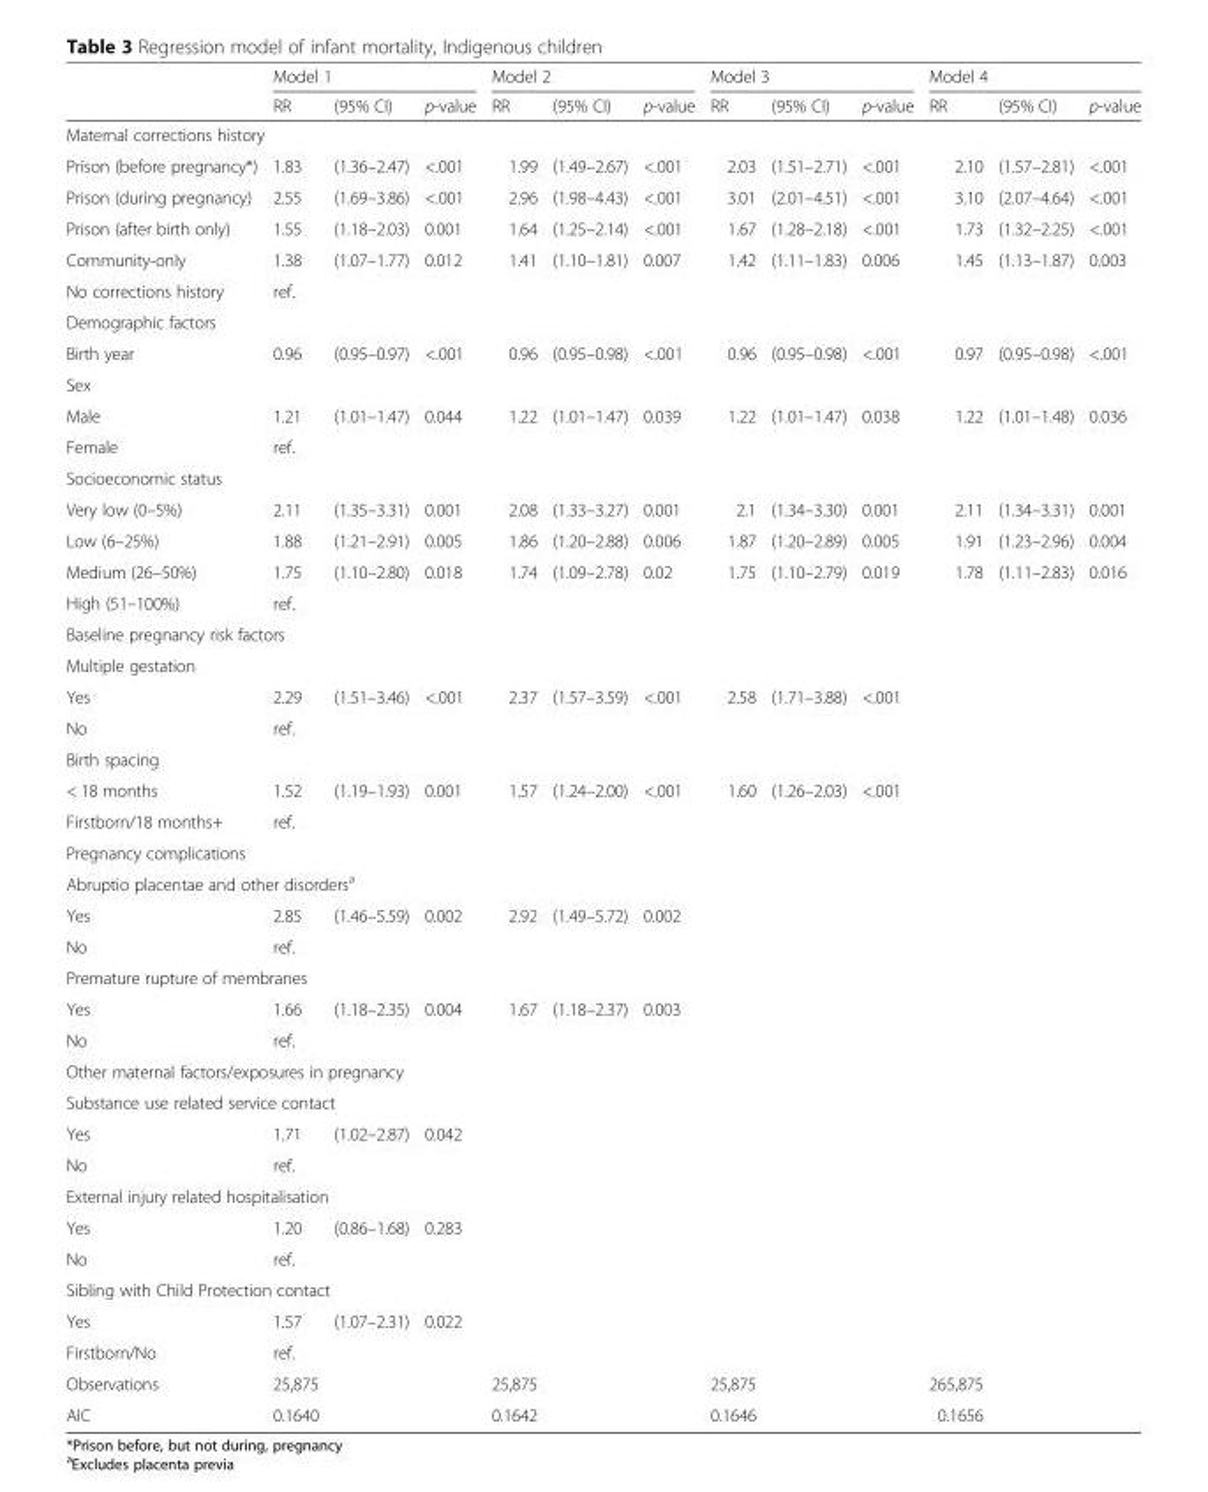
<table><thead><tr><td rowspan="2"></td><td colspan="3">Model 1</td><td colspan="3">Model 2</td><td colspan="3">Model 3</td><td colspan="3">Model 4</td></tr><tr><td>RR</td><td>(95% CI)</td><td>p-value</td><td>RR</td><td>(95% CI)</td><td>p-value</td><td>RR</td><td>(95% CI)</td><td>p-value</td><td>RR</td><td>(95% CI)</td><td>p-value</td></tr></thead><tbody><tr><td colspan="13">Maternal corrections history</td></tr><tr><td>Prison (before pregnancy*)</td><td>1.83</td><td>(1.36–2.47)</td><td>&lt;.001</td><td>1.99</td><td>(1.49–2.67)</td><td>&lt;.001</td><td>2.03</td><td>(1.51–2.71)</td><td>&lt;.001</td><td>2.10</td><td>(1.57–2.81)</td><td>&lt;.001</td></tr><tr><td>Prison (during pregnancy)</td><td>2.55</td><td>(1.69–3.86)</td><td>&lt;.001</td><td>2.96</td><td>(1.98–4.43)</td><td>&lt;.001</td><td>3.01</td><td>(2.01–4.51)</td><td>&lt;.001</td><td>3.10</td><td>(2.07–4.64)</td><td>&lt;.001</td></tr><tr><td>Prison (after birth only)</td><td>1.55</td><td>(1.18–2.03)</td><td>0.001</td><td>1.64</td><td>(1.25–2.14)</td><td>&lt;.001</td><td>1.67</td><td>(1.28–2.18)</td><td>&lt;.001</td><td>1.73</td><td>(1.32–2.25)</td><td>&lt;.001</td></tr><tr><td>Community-only</td><td>1.38</td><td>(1.07–1.77)</td><td>0.012</td><td>1.41</td><td>(1.10–1.81)</td><td>0.007</td><td>1.42</td><td>(1.11–1.83)</td><td>0.006</td><td>1.45</td><td>(1.13–1.87)</td><td>0.003</td></tr><tr><td>No corrections history</td><td>ref.</td><td></td><td></td><td></td><td></td><td></td><td></td><td></td><td></td><td></td><td></td><td></td></tr><tr><td colspan="13">Demographic factors</td></tr><tr><td>Birth year</td><td>0.96</td><td>(0.95–0.97)</td><td>&lt;.001</td><td>0.96</td><td>(0.95–0.98)</td><td>&lt;.001</td><td>0.96</td><td>(0.95–0.98)</td><td>&lt;.001</td><td>0.97</td><td>(0.95–0.98)</td><td>&lt;.001</td></tr><tr><td colspan="13">Sex</td></tr><tr><td>Male</td><td>1.21</td><td>(1.01–1.47)</td><td>0.044</td><td>1.22</td><td>(1.01–1.47)</td><td>0.039</td><td>1.22</td><td>(1.01–1.47)</td><td>0.038</td><td>1.22</td><td>(1.01–1.48)</td><td>0.036</td></tr><tr><td>Female</td><td>ref.</td><td></td><td></td><td></td><td></td><td></td><td></td><td></td><td></td><td></td><td></td><td></td></tr><tr><td colspan="13">Socioeconomic status</td></tr><tr><td>Very low (0–5%)</td><td>2.11</td><td>(1.35–3.31)</td><td>0.001</td><td>2.08</td><td>(1.33–3.27)</td><td>0.001</td><td>2.1</td><td>(1.34–3.30)</td><td>0.001</td><td>2.11</td><td>(1.34–3.31)</td><td>0.001</td></tr><tr><td>Low (6–25%)</td><td>1.88</td><td>(1.21–2.91)</td><td>0.005</td><td>1.86</td><td>(1.20–2.88)</td><td>0.006</td><td>1.87</td><td>(1.20–2.89)</td><td>0.005</td><td>1.91</td><td>(1.23–2.96)</td><td>0.004</td></tr><tr><td>Medium (26–50%)</td><td>1.75</td><td>(1.10–2.80)</td><td>0.018</td><td>1.74</td><td>(1.09–2.78)</td><td>0.02</td><td>1.75</td><td>(1.10–2.79)</td><td>0.019</td><td>1.78</td><td>(1.11–2.83)</td><td>0.016</td></tr><tr><td>High (51–100%)</td><td>ref.</td><td></td><td></td><td></td><td></td><td></td><td></td><td></td><td></td><td></td><td></td><td></td></tr><tr><td colspan="13">Baseline pregnancy risk factors</td></tr><tr><td colspan="13">Multiple gestation</td></tr><tr><td>Yes</td><td>2.29</td><td>(1.51–3.46)</td><td>&lt;.001</td><td>2.37</td><td>(1.57–3.59)</td><td>&lt;.001</td><td>2.58</td><td>(1.71–3.88)</td><td>&lt;.001</td><td></td><td></td><td></td></tr><tr><td>No</td><td>ref.</td><td></td><td></td><td></td><td></td><td></td><td></td><td></td><td></td><td></td><td></td><td></td></tr><tr><td colspan="13">Birth spacing</td></tr><tr><td>&lt; 18 months</td><td>1.52</td><td>(1.19–1.93)</td><td>0.001</td><td>1.57</td><td>(1.24–2.00)</td><td>&lt;.001</td><td>1.60</td><td>(1.26–2.03)</td><td>&lt;.001</td><td></td><td></td><td></td></tr><tr><td>Firstborn/18 months+</td><td>ref.</td><td></td><td></td><td></td><td></td><td></td><td></td><td></td><td></td><td></td><td></td><td></td></tr><tr><td colspan="13">Pregnancy complications</td></tr><tr><td colspan="13">Abruptio placentae and other disorders<sup>a</sup></td></tr><tr><td>Yes</td><td>2.85</td><td>(1.46–5.59)</td><td>0.002</td><td>2.92</td><td>(1.49–5.72)</td><td>0.002</td><td></td><td></td><td></td><td></td><td></td><td></td></tr><tr><td>No</td><td>ref.</td><td></td><td></td><td></td><td></td><td></td><td></td><td></td><td></td><td></td><td></td><td></td></tr><tr><td colspan="13">Premature rupture of membranes</td></tr><tr><td>Yes</td><td>1.66</td><td>(1.18–2.35)</td><td>0.004</td><td>1.67</td><td>(1.18–2.37)</td><td>0.003</td><td></td><td></td><td></td><td></td><td></td><td></td></tr><tr><td>No</td><td>ref.</td><td></td><td></td><td></td><td></td><td></td><td></td><td></td><td></td><td></td><td></td><td></td></tr><tr><td colspan="13">Other maternal factors/exposures in pregnancy</td></tr><tr><td colspan="13">Substance use related service contact</td></tr><tr><td>Yes</td><td>1.71</td><td>(1.02–2.87)</td><td>0.042</td><td></td><td></td><td></td><td></td><td></td><td></td><td></td><td></td><td></td></tr><tr><td>No</td><td>ref.</td><td></td><td></td><td></td><td></td><td></td><td></td><td></td><td></td><td></td><td></td><td></td></tr><tr><td colspan="13">External injury related hospitalisation</td></tr><tr><td>Yes</td><td>1.20</td><td>(0.86–1.68)</td><td>0.283</td><td></td><td></td><td></td><td></td><td></td><td></td><td></td><td></td><td></td></tr><tr><td>No</td><td>ref.</td><td></td><td></td><td></td><td></td><td></td><td></td><td></td><td></td><td></td><td></td><td></td></tr><tr><td colspan="13">Sibling with Child Protection contact</td></tr><tr><td>Yes</td><td>1.57</td><td>(1.07–2.31)</td><td>0.022</td><td></td><td></td><td></td><td></td><td></td><td></td><td></td><td></td><td></td></tr><tr><td>Firstborn/No</td><td>ref.</td><td></td><td></td><td></td><td></td><td></td><td></td><td></td><td></td><td></td><td></td><td></td></tr><tr><td>Observations</td><td>25,875</td><td></td><td></td><td>25,875</td><td></td><td></td><td>25,875</td><td></td><td></td><td>265,875</td><td></td><td></td></tr><tr><td>AIC</td><td>0.1640</td><td></td><td></td><td>0.1642</td><td></td><td></td><td>0.1646</td><td></td><td></td><td>0.1656</td><td></td><td></td></tr></tbody></table>